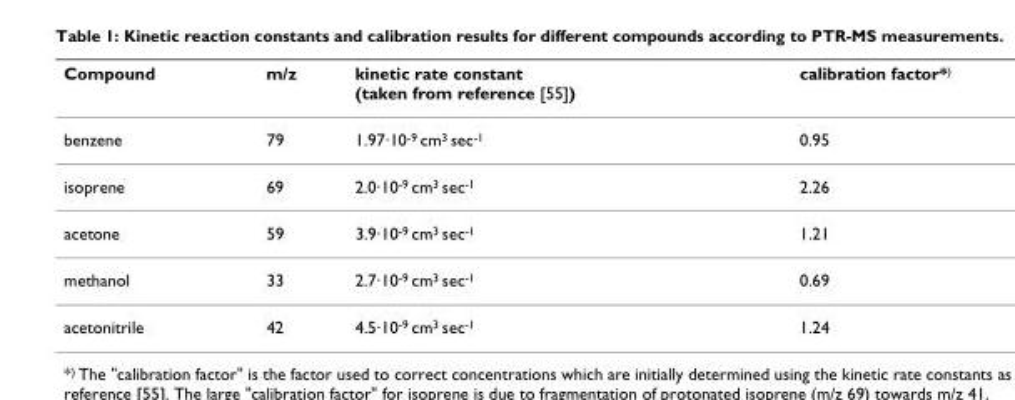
<table><thead><tr><td>Compound</td><td>m/z</td><td>kinetic rate constant (taken from reference [55])</td><td>calibration factor*<sup>)</sup></td></tr></thead><tbody><tr><td>benzene</td><td>79</td><td>1.97·10<sup>-9</sup> cm<sup>3</sup> sec<sup>-1</sup></td><td>0.95</td></tr><tr><td>isoprene</td><td>69</td><td>2.0·10<sup>-9</sup> cm<sup>3</sup> sec<sup>-1</sup></td><td>2.26</td></tr><tr><td>acetone</td><td>59</td><td>3.9·10<sup>-9</sup> cm<sup>3</sup> sec<sup>-1</sup></td><td>1.21</td></tr><tr><td>methanol</td><td>33</td><td>2.7·10<sup>-9</sup> cm<sup>3</sup> sec<sup>-1</sup></td><td>0.69</td></tr><tr><td>acetonitrile</td><td>42</td><td>4.5·10<sup>-9</sup> cm<sup>3</sup> sec<sup>-1</sup></td><td>1.24</td></tr></tbody></table>